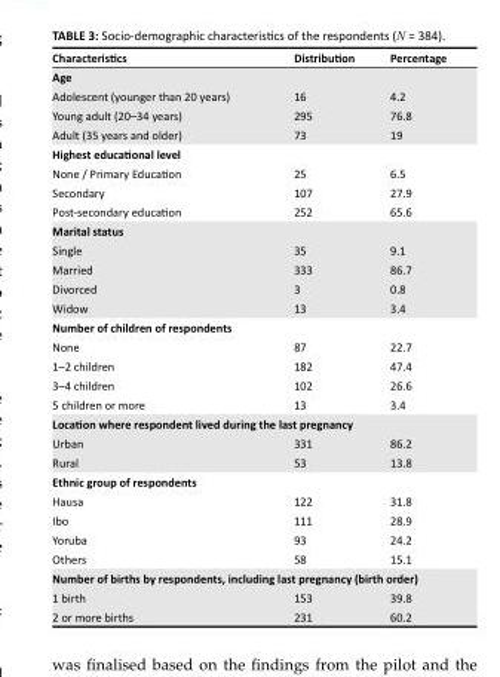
<table><thead><tr><td>Characteristics</td><td>Distribution</td><td>Percentage</td></tr></thead><tbody><tr><td colspan="3">Age</td></tr><tr><td>Adolescent (younger than 20 years)</td><td>16</td><td>4.2</td></tr><tr><td>Young adult (20–34 years)</td><td>295</td><td>76.8</td></tr><tr><td>Adult (35 years and older)</td><td>73</td><td>19</td></tr><tr><td colspan="3">Highest educational level</td></tr><tr><td>None / Primary Education</td><td>25</td><td>6.5</td></tr><tr><td>Secondary</td><td>107</td><td>27.9</td></tr><tr><td>Post-secondary education</td><td>252</td><td>65.6</td></tr><tr><td colspan="3">Marital status</td></tr><tr><td>Single</td><td>35</td><td>9.1</td></tr><tr><td>Married</td><td>333</td><td>86.7</td></tr><tr><td>Divorced</td><td>3</td><td>0.8</td></tr><tr><td>Widow</td><td>13</td><td>3.4</td></tr><tr><td colspan="3">Number of children of respondents</td></tr><tr><td>None</td><td>87</td><td>22.7</td></tr><tr><td>1–2 children</td><td>182</td><td>47.4</td></tr><tr><td>3–4 children</td><td>102</td><td>26.6</td></tr><tr><td>5 children or more</td><td>13</td><td>3.4</td></tr><tr><td colspan="3">Location where respondent lived during the last pregnancy</td></tr><tr><td>Urban</td><td>331</td><td>86.2</td></tr><tr><td>Rural</td><td>53</td><td>13.8</td></tr><tr><td colspan="3">Ethnic group of respondents</td></tr><tr><td>Hausa</td><td>122</td><td>31.8</td></tr><tr><td>Ibo</td><td>111</td><td>28.9</td></tr><tr><td>Yoruba</td><td>93</td><td>24.2</td></tr><tr><td>Others</td><td>58</td><td>15.1</td></tr><tr><td colspan="3">Number of births by respondents, including last pregnancy (birth order)</td></tr><tr><td>1 birth</td><td>153</td><td>39.8</td></tr><tr><td>2 or more births</td><td>231</td><td>60.2</td></tr></tbody></table>